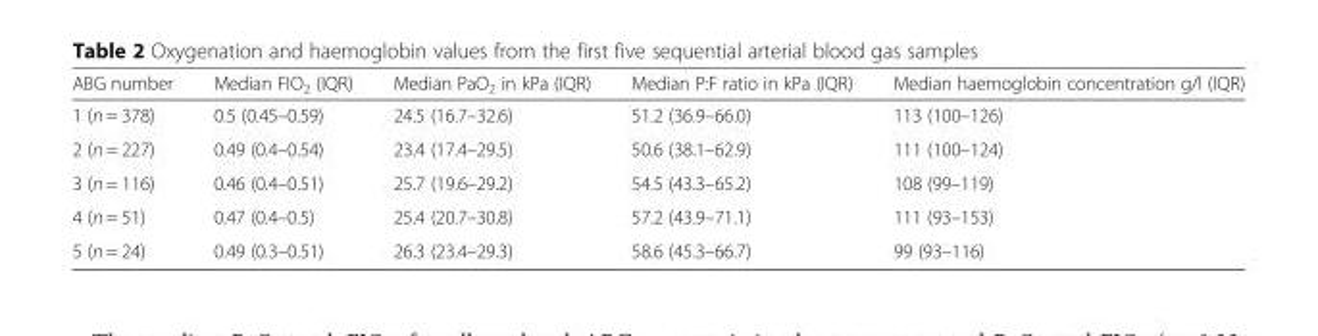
<table><thead><tr><td>ABG number</td><td>Median FIO<sub>2</sub> (IQR)</td><td>Median PaO<sub>2</sub> in kPa (IQR)</td><td>Median P:F ratio in kPa (IQR)</td><td>Median haemoglobin concentration g/l (IQR)</td></tr></thead><tbody><tr><td>1 (n = 378)</td><td>0.5 (0.45–0.59)</td><td>24.5 (16.7–32.6)</td><td>51.2 (36.9–66.0)</td><td>113 (100–126)</td></tr><tr><td>2 (n = 227)</td><td>0.49 (0.4–0.54)</td><td>23.4 (17.4–29.5)</td><td>50.6 (38.1–62.9)</td><td>111 (100–124)</td></tr><tr><td>3 (n = 116)</td><td>0.46 (0.4–0.51)</td><td>25.7 (19.6–29.2)</td><td>54.5 (43.3–65.2)</td><td>108 (99–119)</td></tr><tr><td>4 (n = 51)</td><td>0.47 (0.4–0.5)</td><td>25.4 (20.7–30.8)</td><td>57.2 (43.9–71.1)</td><td>111 (93–153)</td></tr><tr><td>5 (n = 24)</td><td>0.49 (0.3–0.51)</td><td>26.3 (23.4–29.3)</td><td>58.6 (45.3–66.7)</td><td>99 (93–116)</td></tr></tbody></table>